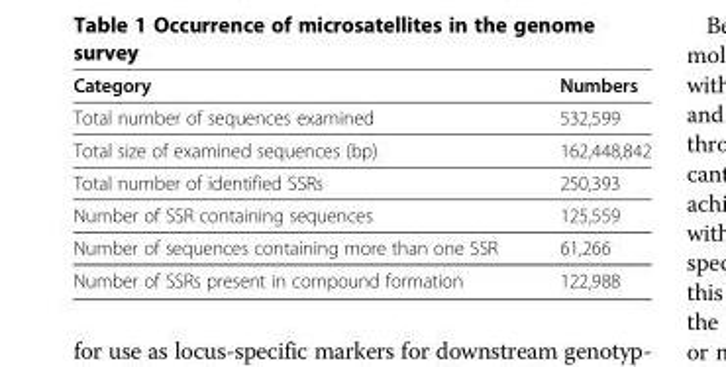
<table><thead><tr><td>Category</td><td>Numbers</td></tr></thead><tbody><tr><td>Total number of sequences examined</td><td>532,599</td></tr><tr><td>Total size of examined sequences (bp)</td><td>162,448,842</td></tr><tr><td>Total number of identified SSRs</td><td>250,393</td></tr><tr><td>Number of SSR containing sequences</td><td>125,559</td></tr><tr><td>Number of sequences containing more than one SSR</td><td>61,266</td></tr><tr><td>Number of SSRs present in compound formation</td><td>122,988</td></tr></tbody></table>